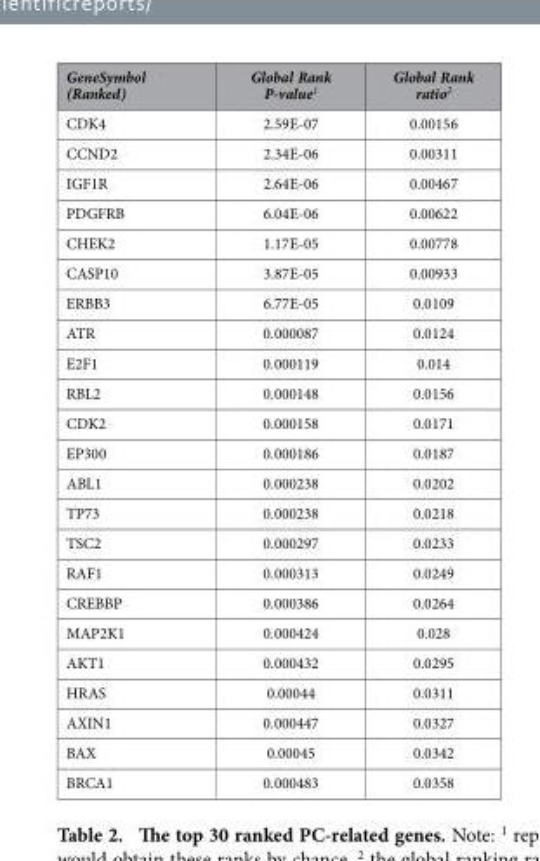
<table><thead><tr><td>GeneSymbol (Ranked)</td><td>Global Rank P-value<sup>1</sup></td><td>Global Rank ratio<sup>2</sup></td></tr></thead><tbody><tr><td>CDK4</td><td>2.59E-07</td><td>0.00156</td></tr><tr><td>CCND2</td><td>2.34E-06</td><td>0.00311</td></tr><tr><td>IGF1R</td><td>2.64E-06</td><td>0.00467</td></tr><tr><td>PDGFRB</td><td>6.04E-06</td><td>0.00622</td></tr><tr><td>CHEK2</td><td>1.17E-05</td><td>0.00778</td></tr><tr><td>CASP10</td><td>3.87E-05</td><td>0.00933</td></tr><tr><td>ERBB3</td><td>6.77E-05</td><td>0.0109</td></tr><tr><td>ATR</td><td>0.000087</td><td>0.0124</td></tr><tr><td>E2F1</td><td>0.000119</td><td>0.014</td></tr><tr><td>RBL2</td><td>0.000148</td><td>0.0156</td></tr><tr><td>CDK2</td><td>0.000158</td><td>0.0171</td></tr><tr><td>EP300</td><td>0.000186</td><td>0.0187</td></tr><tr><td>ABL1</td><td>0.000238</td><td>0.0202</td></tr><tr><td>TP73</td><td>0.000238</td><td>0.0218</td></tr><tr><td>TSC2</td><td>0.000297</td><td>0.0233</td></tr><tr><td>RAF1</td><td>0.000313</td><td>0.0249</td></tr><tr><td>CREBBP</td><td>0.000386</td><td>0.0264</td></tr><tr><td>MAP2K1</td><td>0.000424</td><td>0.028</td></tr><tr><td>AKT1</td><td>0.000432</td><td>0.0295</td></tr><tr><td>HRAS</td><td>0.00044</td><td>0.0311</td></tr><tr><td>AXIN1</td><td>0.000447</td><td>0.0327</td></tr><tr><td>BAX</td><td>0.00045</td><td>0.0342</td></tr><tr><td>BRCA1</td><td>0.000483</td><td>0.0358</td></tr></tbody></table>